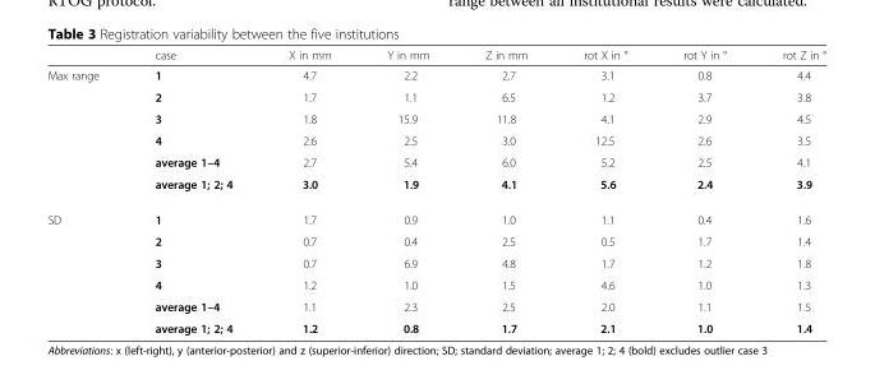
<table><thead><tr><td></td><td>case</td><td>X in mm</td><td>Y in mm</td><td>Z in mm</td><td>rot X in °</td><td>rot Y in °</td><td>rot Z in °</td></tr></thead><tbody><tr><td rowspan="6">Max range</td><td>1</td><td>4.7</td><td>2.2</td><td>2.7</td><td>3.1</td><td>0.8</td><td>4.4</td></tr><tr><td>2</td><td>1.7</td><td>1.1</td><td>6.5</td><td>1.2</td><td>3.7</td><td>3.8</td></tr><tr><td>3</td><td>1.8</td><td>15.9</td><td>11.8</td><td>4.1</td><td>2.9</td><td>4.5</td></tr><tr><td>4</td><td>2.6</td><td>2.5</td><td>3.0</td><td>12.5</td><td>2.6</td><td>3.5</td></tr><tr><td>average 1–4</td><td>2.7</td><td>5.4</td><td>6.0</td><td>5.2</td><td>2.5</td><td>4.1</td></tr><tr><td>average 1; 2; 4</td><td>3.0</td><td>1.9</td><td>4.1</td><td>5.6</td><td>2.4</td><td>3.9</td></tr><tr><td rowspan="6">SD</td><td>1</td><td>1.7</td><td>0.9</td><td>1.0</td><td>1.1</td><td>0.4</td><td>1.6</td></tr><tr><td>2</td><td>0.7</td><td>0.4</td><td>2.5</td><td>0.5</td><td>1.7</td><td>1.4</td></tr><tr><td>3</td><td>0.7</td><td>6.9</td><td>4.8</td><td>1.7</td><td>1.2</td><td>1.8</td></tr><tr><td>4</td><td>1.2</td><td>1.0</td><td>1.5</td><td>4.6</td><td>1.0</td><td>1.3</td></tr><tr><td>average 1–4</td><td>1.1</td><td>2.3</td><td>2.5</td><td>2.0</td><td>1.1</td><td>1.5</td></tr><tr><td>average 1; 2; 4</td><td>1.2</td><td>0.8</td><td>1.7</td><td>2.1</td><td>1.0</td><td>1.4</td></tr></tbody></table>